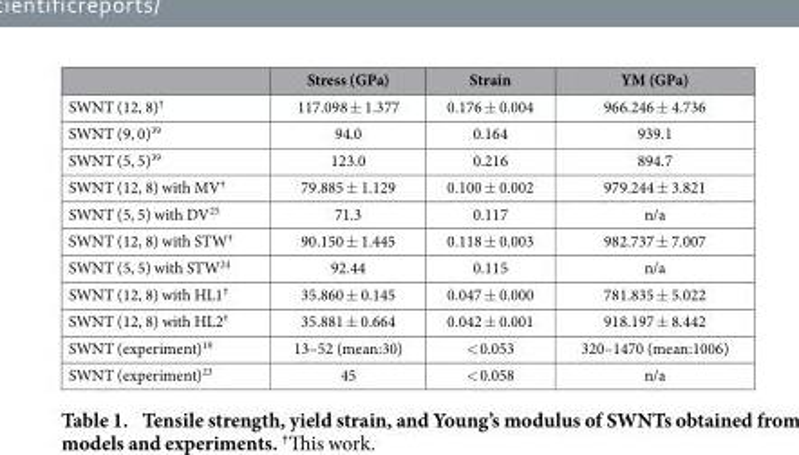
<table><thead><tr><td></td><td>Stress (GPa)</td><td>Strain</td><td>YM (GPa)</td></tr></thead><tbody><tr><td>SWNT (12, 8)†</td><td>117.098 ± 1.377</td><td>0.176 ± 0.004</td><td>966.246 ± 4.736</td></tr><tr><td>SWNT (9, 0)<sup>39</sup></td><td>94.0</td><td>0.164</td><td>939.1</td></tr><tr><td>SWNT (5, 5)<sup>39</sup></td><td>123.0</td><td>0.216</td><td>894.7</td></tr><tr><td>SWNT (12, 8) with MV†</td><td>79.885 ± 1.129</td><td>0.100 ± 0.002</td><td>979.244 ± 3.821</td></tr><tr><td>SWNT (5, 5) with DV<sup>25</sup></td><td>71.3</td><td>0.117</td><td>n/a</td></tr><tr><td>SWNT (12, 8) with STW†</td><td>90.150 ± 1.445</td><td>0.118 ± 0.003</td><td>982.737 ± 7.007</td></tr><tr><td>SWNT (5, 5) with STW<sup>24</sup></td><td>92.44</td><td>0.115</td><td>n/a</td></tr><tr><td>SWNT (12, 8) with HL1†</td><td>35.860 ± 0.145</td><td>0.047 ± 0.000</td><td>781.835 ± 5.022</td></tr><tr><td>SWNT (12, 8) with HL2<sup>†</sup></td><td>35.881 ± 0.664</td><td>0.042 ± 0.001</td><td>918.197 ± 8.442</td></tr><tr><td>SWNT (experiment)<sup>19</sup></td><td>13–52 (mean:30)</td><td>&lt; 0.053</td><td>320–1470 (mean:1006)</td></tr><tr><td>SWNT (experiment)<sup>23</sup></td><td>45</td><td>&lt; 0.058</td><td>n/a</td></tr></tbody></table>